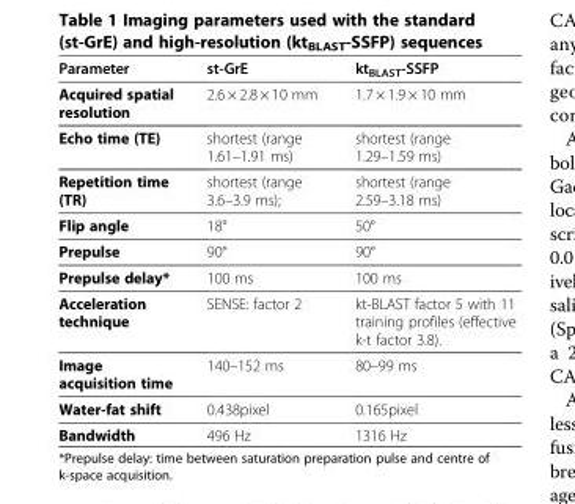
<table><thead><tr><td>Parameter</td><td>st-GrE</td><td>kt<sub>BLAST</sub>-SSFP</td></tr></thead><tbody><tr><td>Acquired spatial resolution</td><td>2.6 × 2.8 × 10 mm</td><td>1.7 × 1.9 × 10 mm</td></tr><tr><td>Echo time (TE)</td><td>shortest (range 1.61–1.91 ms)</td><td>shortest (range 1.29–1.59 ms)</td></tr><tr><td>Repetition time (TR)</td><td>shortest (range 3.6–3.9 ms);</td><td>shortest (range 2.59–3.18 ms)</td></tr><tr><td>Flip angle</td><td>18°</td><td>50°</td></tr><tr><td>Prepulse</td><td>90°</td><td>90°</td></tr><tr><td>Prepulse delay*</td><td>100 ms</td><td>100 ms</td></tr><tr><td>Acceleration technique</td><td>SENSE: factor 2</td><td>kt-BLAST factor 5 with 11 training profiles (effective k-t factor 3.8).</td></tr><tr><td>Image acquisition time</td><td>140–152 ms</td><td>80–99 ms</td></tr><tr><td>Water-fat shift</td><td>0.438pixel</td><td>0.165pixel</td></tr><tr><td>Bandwidth</td><td>496 Hz</td><td>1316 Hz</td></tr></tbody></table>